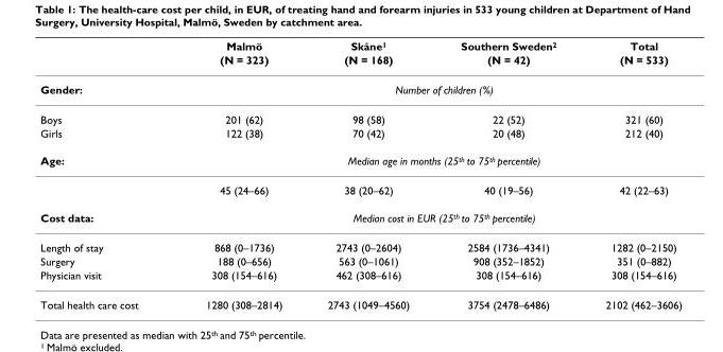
<table><thead><tr><td rowspan="2"></td><td rowspan="2">Malmö (N = 323)</td><td rowspan="2">Skåne1 (N = 168)</td><td rowspan="2">Southern Sweden2 (N = 42)</td><td rowspan="2">Total (N = 533)</td></tr><tr></tr></thead><tbody><tr><td>Gender:</td><td></td><td colspan="2">Number of children (%)</td><td></td></tr><tr><td>Boys</td><td>201 (62)</td><td>98 (58)</td><td>22 (52)</td><td>321 (60)</td></tr><tr><td>Girls</td><td>122 (38)</td><td>70 (42)</td><td>20 (48)</td><td>212 (40)</td></tr><tr><td rowspan="2">Age:</td><td></td><td colspan="2">Median age in months (25<sup>th</sup> to 75<sup>th</sup> percentile)</td><td></td></tr><tr><td>45 (24–66)</td><td>38 (20–62)</td><td>40 (19–56)</td><td>42 (22–63)</td></tr><tr><td>Cost data:</td><td></td><td colspan="2">Median cost in EUR (25<sup>th</sup> to 75<sup>th</sup> percentile)</td><td></td></tr><tr><td>Length of stay</td><td>868 (0–1736)</td><td>2743 (0–2604)</td><td>2584 (1736–4341)</td><td>1282 (0–2150)</td></tr><tr><td>Surgery</td><td>188 (0–656)</td><td>563 (0–1061)</td><td>908 (352–1852)</td><td>351 (0–882)</td></tr><tr><td>Physician visit</td><td>308 (154–616)</td><td>462 (308–616)</td><td>308 (154–616)</td><td>308 (154–616)</td></tr><tr><td>Total health care cost</td><td>1280 (308–2814)</td><td>2743 (1049–4560)</td><td>3754 (2478–6486)</td><td>2102 (462–3606)</td></tr></tbody></table>